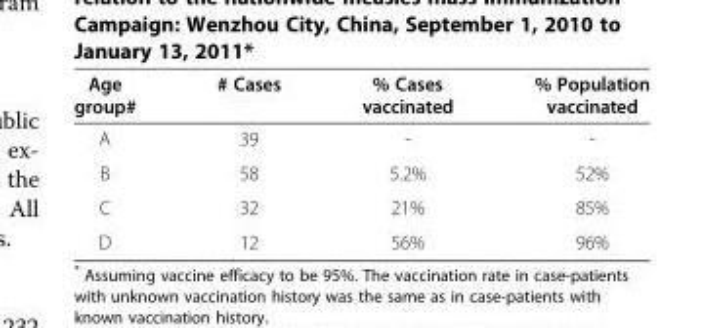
<table><thead><tr><td>Age group#</td><td># Cases</td><td>% Cases vaccinated</td><td>% Population vaccinated</td></tr></thead><tbody><tr><td>A</td><td>39</td><td>-</td><td>-</td></tr><tr><td>B</td><td>58</td><td>5.2%</td><td>52%</td></tr><tr><td>C</td><td>32</td><td>21%</td><td>85%</td></tr><tr><td>D</td><td>12</td><td>56%</td><td>96%</td></tr></tbody></table>